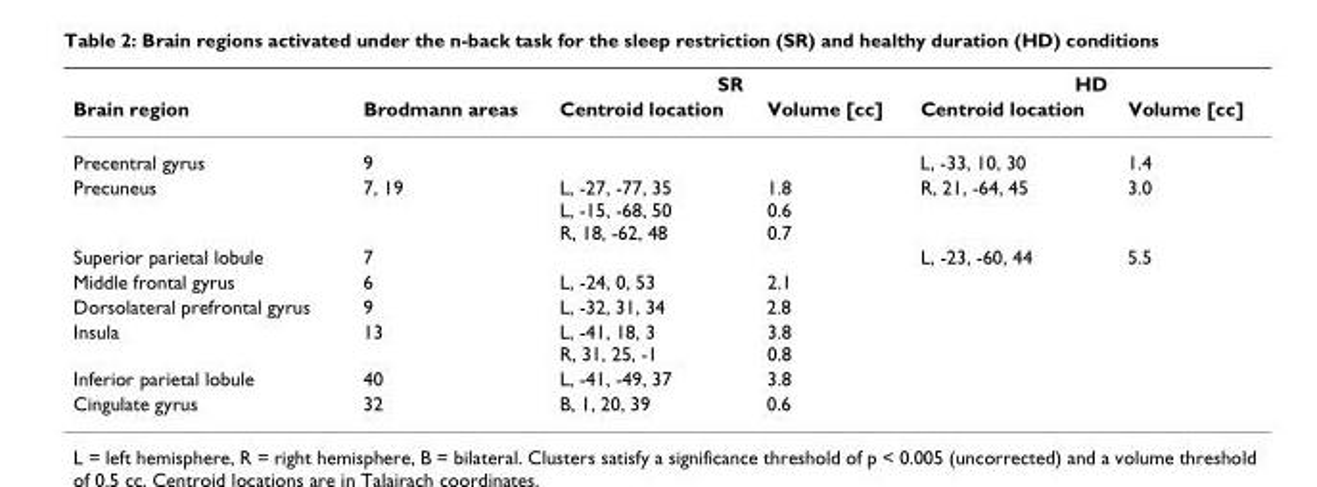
<table><thead><tr><td rowspan="2">Brain region</td><td rowspan="2">Brodmann areas</td><td colspan="2">SR</td><td colspan="2">HD</td></tr><tr><td>Centroid location</td><td>Volume [cc]</td><td>Centroid location</td><td>Volume [cc]</td></tr></thead><tbody><tr><td>Precentral gyrus</td><td>9</td><td></td><td></td><td>L, -33, 10, 30</td><td>1.4</td></tr><tr><td>Precuneus</td><td>7, 19</td><td>L, -27, -77, 35 L, -15, -68, 50 R, 18, -62, 48</td><td>1.8 0.6 0.7</td><td>R, 21, -64, 45</td><td>3.0</td></tr><tr><td>Superior parietal lobule</td><td>7</td><td></td><td></td><td>L, -23, -60, 44</td><td>5.5</td></tr><tr><td>Middle frontal gyrus</td><td>6</td><td>L, -24, 0, 53</td><td>2.1</td><td></td><td></td></tr><tr><td>Dorsolateral prefrontal gyrus</td><td>9</td><td>L, -32, 31, 34</td><td>2.8</td><td></td><td></td></tr><tr><td>Insula</td><td>13</td><td>L, -41, 18, 3 R, 31, 25, -1</td><td>3.8 0.8</td><td></td><td></td></tr><tr><td>Inferior parietal lobule</td><td>40</td><td>L, -41, -49, 37</td><td>3.8</td><td></td><td></td></tr><tr><td>Cingulate gyrus</td><td>32</td><td>B, 1, 20, 39</td><td>0.6</td><td></td><td></td></tr></tbody></table>